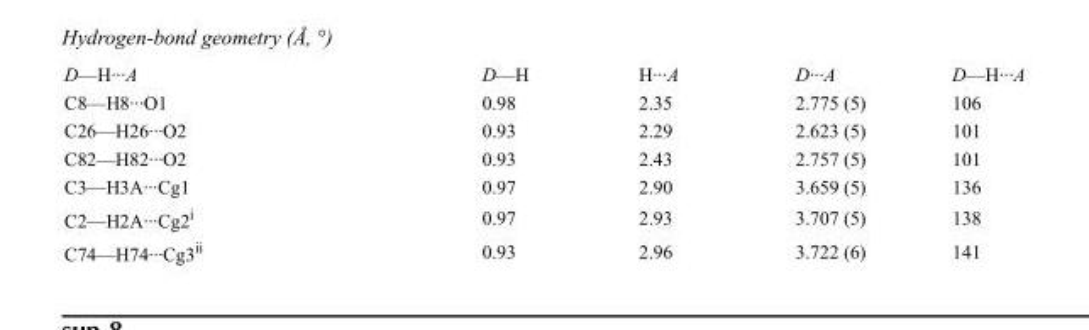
<table><tbody><tr><td>D—H···A</td><td>D—H</td><td>H···A</td><td>D···A</td><td>D—H···A</td></tr><tr><td>C8—H8···O1</td><td>0.98</td><td>2.35</td><td>2.775 (5)</td><td>106</td></tr><tr><td>C26—H26···O2</td><td>0.93</td><td>2.29</td><td>2.623 (5)</td><td>101</td></tr><tr><td>C82—H82···O2</td><td>0.93</td><td>2.43</td><td>2.757 (5)</td><td>101</td></tr><tr><td>C3—H3A···Cg1</td><td>0.97</td><td>2.90</td><td>3.659 (5)</td><td>136</td></tr><tr><td>C2—H2A···Cg2<sup>i</sup></td><td>0.97</td><td>2.93</td><td>3.707 (5)</td><td>138</td></tr><tr><td>C74—H74···Cg3<sup>ii</sup></td><td>0.93</td><td>2.96</td><td>3.722 (6)</td><td>141</td></tr></tbody></table>